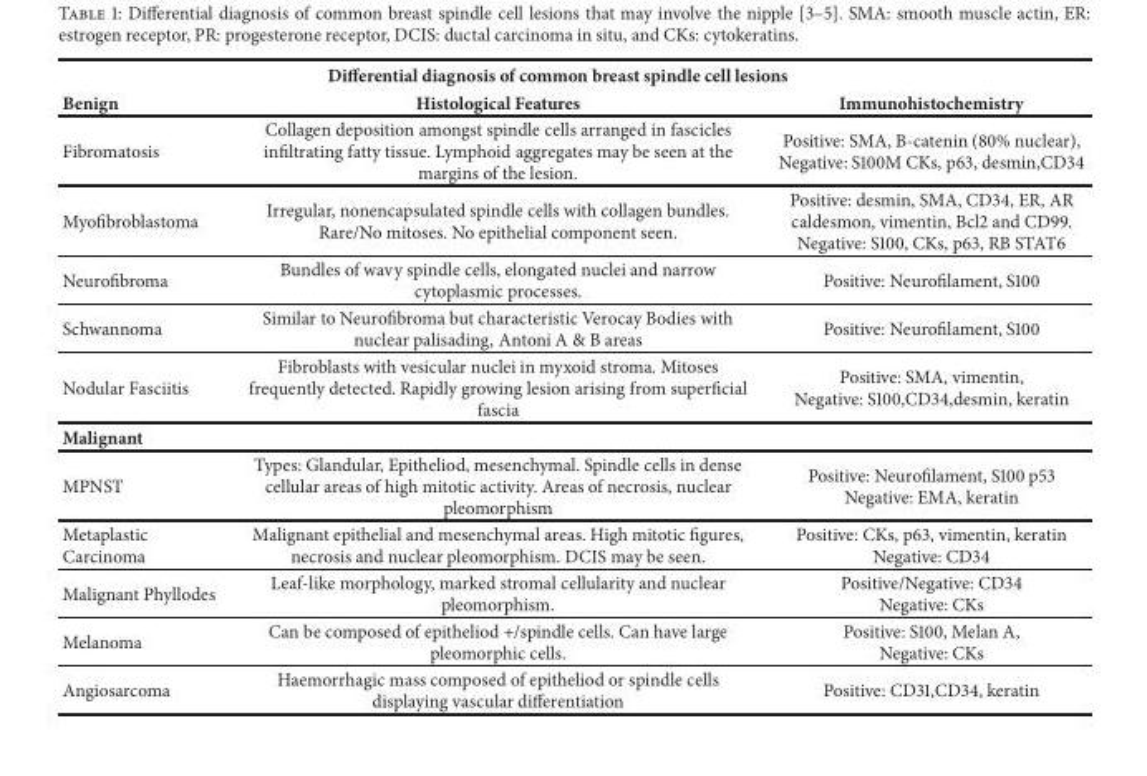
<table><thead><tr><td colspan="3">Differential diagnosis of common breast spindle cell lesions</td></tr><tr><td>Benign</td><td>Histological Features</td><td>Immunohistochemistry</td></tr></thead><tbody><tr><td>Fibromatosis</td><td>Collagen deposition amongst spindle cells arranged in fascicles infiltrating fatty tissue. Lymphoid aggregates may be seen at the margins of the lesion.</td><td>Positive: SMA, B-catenin (80% nuclear), Negative: S100M CKs, p63, desmin,CD34</td></tr><tr><td>Myofibroblastoma</td><td>Irregular, nonencapsulated spindle cells with collagen bundles. Rare/No mitoses. No epithelial component seen.</td><td>Positive: desmin, SMA, CD34, ER, AR caldesmon, vimentin, Bcl2 and CD99. Negative: S100, CKs, p63, RB STAT6</td></tr><tr><td>Neurofibroma</td><td>Bundles of wavy spindle cells, elongated nuclei and narrow cytoplasmic processes.</td><td>Positive: Neurofilament, S100</td></tr><tr><td>Schwannoma</td><td>Similar to Neurofibroma but characteristic Verocay Bodies with nuclear palisading, Antoni A &amp; B areas</td><td>Positive: Neurofilament, S100</td></tr><tr><td>Nodular Fasciitis</td><td>Fibroblasts with vesicular nuclei in myxoid stroma. Mitoses frequently detected. Rapidly growing lesion arising from superficial fascia</td><td>Positive: SMA, vimentin, Negative: S100,CD34,desmin, keratin</td></tr><tr><td colspan="3">Malignant</td></tr><tr><td>MPNST</td><td>Types: Glandular, Epitheliod, mesenchymal. Spindle cells in dense cellular areas of high mitotic activity. Areas of necrosis, nuclear pleomorphism</td><td>Positive: Neurofilament, S100 p53 Negative: EMA, keratin</td></tr><tr><td>Metaplastic Carcinoma</td><td>Malignant epithelial and mesenchymal areas. High mitotic figures, necrosis and nuclear pleomorphism. DCIS may be seen.</td><td>Positive: CKs, p63, vimentin, keratin Negative: CD34</td></tr><tr><td>Malignant Phyllodes</td><td>Leaf-like morphology, marked stromal cellularity and nuclear pleomorphism.</td><td>Positive/Negative: CD34 Negative: CKs</td></tr><tr><td>Melanoma</td><td>Can be composed of epitheliod +/spindle cells. Can have large pleomorphic cells.</td><td>Positive: S100, Melan A, Negative: CKs</td></tr><tr><td>Angiosarcoma</td><td>Haemorrhagic mass composed of epitheliod or spindle cells displaying vascular differentiation</td><td>Positive: CD31,CD34, keratin</td></tr></tbody></table>